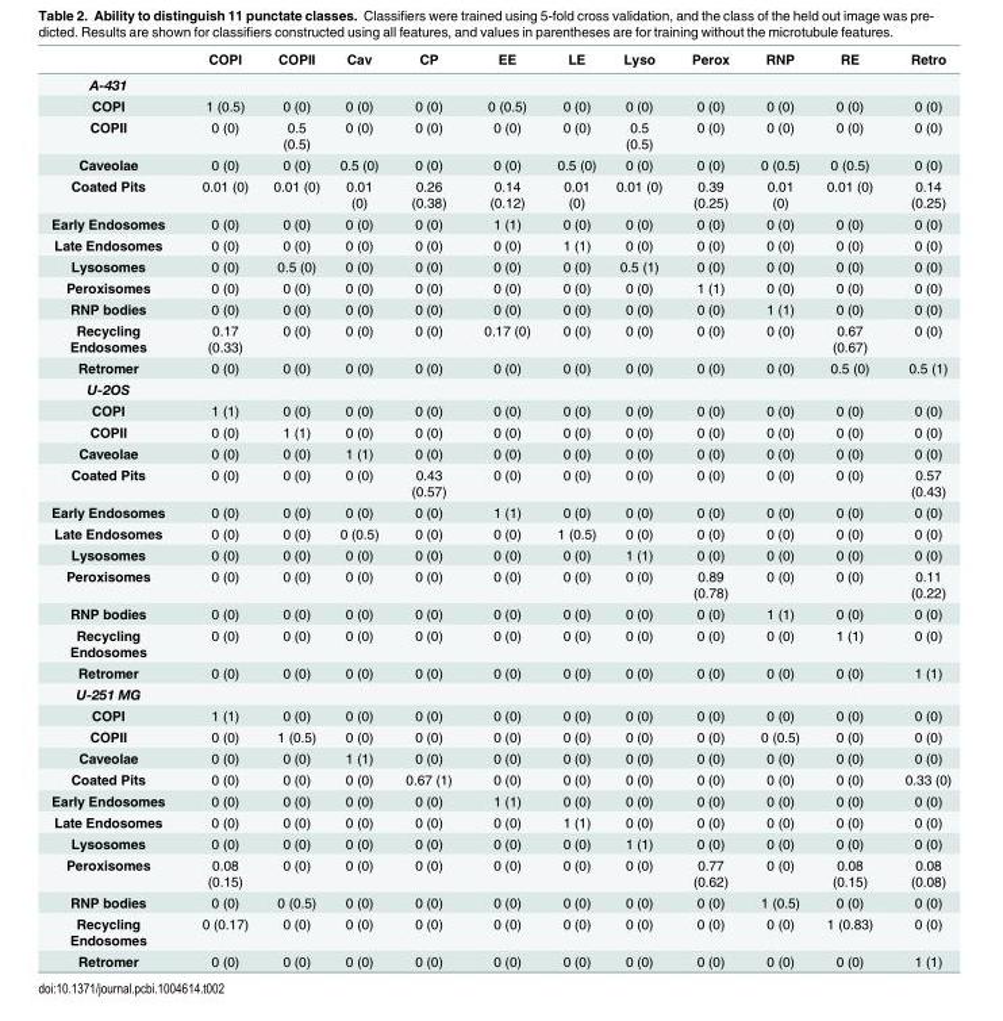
<table><thead><tr><td></td><td>COPI</td><td>COPII</td><td>Cav</td><td>CP</td><td>EE</td><td>LE</td><td>Lyso</td><td>Perox</td><td>RNP</td><td>RE</td><td>Retro</td></tr></thead><tbody><tr><td colspan="12">A-431</td></tr><tr><td>COPI</td><td>1 (0.5)</td><td>0 (0)</td><td>0 (0)</td><td>0 (0)</td><td>0 (0.5)</td><td>0 (0)</td><td>0 (0)</td><td>0 (0)</td><td>0 (0)</td><td>0 (0)</td><td>0 (0)</td></tr><tr><td>COPII</td><td>0 (0)</td><td>0.5 (0.5)</td><td>0 (0)</td><td>0 (0)</td><td>0 (0)</td><td>0 (0)</td><td>0.5 (0.5)</td><td>0 (0)</td><td>0 (0)</td><td>0 (0)</td><td>0 (0)</td></tr><tr><td>Caveolae</td><td>0 (0)</td><td>0 (0)</td><td>0.5 (0)</td><td>0 (0)</td><td>0 (0)</td><td>0.5 (0)</td><td>0 (0)</td><td>0 (0)</td><td>0 (0.5)</td><td>0 (0.5)</td><td>0 (0)</td></tr><tr><td>Coated Pits</td><td>0.01 (0)</td><td>0.01 (0)</td><td>0.01 (0)</td><td>0.26 (0.38)</td><td>0.14 (0.12)</td><td>0.01 (0)</td><td>0.01 (0)</td><td>0.39 (0.25)</td><td>0.01 (0)</td><td>0.01 (0)</td><td>0.14 (0.25)</td></tr><tr><td>Early Endosomes</td><td>0 (0)</td><td>0 (0)</td><td>0 (0)</td><td>0 (0)</td><td>1 (1)</td><td>0 (0)</td><td>0 (0)</td><td>0 (0)</td><td>0 (0)</td><td>0 (0)</td><td>0 (0)</td></tr><tr><td>Late Endosomes</td><td>0 (0)</td><td>0 (0)</td><td>0 (0)</td><td>0 (0)</td><td>0 (0)</td><td>1 (1)</td><td>0 (0)</td><td>0 (0)</td><td>0 (0)</td><td>0 (0)</td><td>0 (0)</td></tr><tr><td>Lysosomes</td><td>0 (0)</td><td>0.5 (0)</td><td>0 (0)</td><td>0 (0)</td><td>0 (0)</td><td>0 (0)</td><td>0.5 (1)</td><td>0 (0)</td><td>0 (0)</td><td>0 (0)</td><td>0 (0)</td></tr><tr><td>Peroxisomes</td><td>0 (0)</td><td>0 (0)</td><td>0 (0)</td><td>0 (0)</td><td>0 (0)</td><td>0 (0)</td><td>0 (0)</td><td>1 (1)</td><td>0 (0)</td><td>0 (0)</td><td>0 (0)</td></tr><tr><td>RNP bodies</td><td>0 (0)</td><td>0 (0)</td><td>0 (0)</td><td>0 (0)</td><td>0 (0)</td><td>0 (0)</td><td>0 (0)</td><td>0 (0)</td><td>1 (1)</td><td>0 (0)</td><td>0 (0)</td></tr><tr><td>Recycling Endosomes</td><td>0.17 (0.33)</td><td>0 (0)</td><td>0 (0)</td><td>0 (0)</td><td>0.17 (0)</td><td>0 (0)</td><td>0 (0)</td><td>0 (0)</td><td>0 (0)</td><td>0.67 (0.67)</td><td>0 (0)</td></tr><tr><td>Retromer</td><td>0 (0)</td><td>0 (0)</td><td>0 (0)</td><td>0 (0)</td><td>0 (0)</td><td>0 (0)</td><td>0 (0)</td><td>0 (0)</td><td>0 (0)</td><td>0.5 (0)</td><td>0.5 (1)</td></tr><tr><td colspan="12">U-2OS</td></tr><tr><td>COPI</td><td>1 (1)</td><td>0 (0)</td><td>0 (0)</td><td>0 (0)</td><td>0 (0)</td><td>0 (0)</td><td>0 (0)</td><td>0 (0)</td><td>0 (0)</td><td>0 (0)</td><td>0 (0)</td></tr><tr><td>COPII</td><td>0 (0)</td><td>1 (1)</td><td>0 (0)</td><td>0 (0)</td><td>0 (0)</td><td>0 (0)</td><td>0 (0)</td><td>0 (0)</td><td>0 (0)</td><td>0 (0)</td><td>0 (0)</td></tr><tr><td>Caveolae</td><td>0 (0)</td><td>0 (0)</td><td>1 (1)</td><td>0 (0)</td><td>0 (0)</td><td>0 (0)</td><td>0 (0)</td><td>0 (0)</td><td>0 (0)</td><td>0 (0)</td><td>0 (0)</td></tr><tr><td>Coated Pits</td><td>0 (0)</td><td>0 (0)</td><td>0 (0)</td><td>0.43 (0.57)</td><td>0 (0)</td><td>0 (0)</td><td>0 (0)</td><td>0 (0)</td><td>0 (0)</td><td>0 (0)</td><td>0.57 (0.43)</td></tr><tr><td>Early Endosomes</td><td>0 (0)</td><td>0 (0)</td><td>0 (0)</td><td>0 (0)</td><td>1 (1)</td><td>0 (0)</td><td>0 (0)</td><td>0 (0)</td><td>0 (0)</td><td>0 (0)</td><td>0 (0)</td></tr><tr><td>Late Endosomes</td><td>0 (0)</td><td>0 (0)</td><td>0 (0.5)</td><td>0 (0)</td><td>0 (0)</td><td>1 (0.5)</td><td>0 (0)</td><td>0 (0)</td><td>0 (0)</td><td>0 (0)</td><td>0 (0)</td></tr><tr><td>Lysosomes</td><td>0 (0)</td><td>0 (0)</td><td>0 (0)</td><td>0 (0)</td><td>0 (0)</td><td>0 (0)</td><td>1 (1)</td><td>0 (0)</td><td>0 (0)</td><td>0 (0)</td><td>0 (0)</td></tr><tr><td>Peroxisomes</td><td>0 (0)</td><td>0 (0)</td><td>0 (0)</td><td>0 (0)</td><td>0 (0)</td><td>0 (0)</td><td>0 (0)</td><td>0.89 (0.78)</td><td>0 (0)</td><td>0 (0)</td><td>0.11 (0.22)</td></tr><tr><td>RNP bodies</td><td>0 (0)</td><td>0 (0)</td><td>0 (0)</td><td>0 (0)</td><td>0 (0)</td><td>0 (0)</td><td>0 (0)</td><td>0 (0)</td><td>1 (1)</td><td>0 (0)</td><td>0 (0)</td></tr><tr><td>Recycling Endosomes</td><td>0 (0)</td><td>0 (0)</td><td>0 (0)</td><td>0 (0)</td><td>0 (0)</td><td>0 (0)</td><td>0 (0)</td><td>0 (0)</td><td>0 (0)</td><td>1 (1)</td><td>0 (0)</td></tr><tr><td>Retromer</td><td>0 (0)</td><td>0 (0)</td><td>0 (0)</td><td>0 (0)</td><td>0 (0)</td><td>0 (0)</td><td>0 (0)</td><td>0 (0)</td><td>0 (0)</td><td>0 (0)</td><td>1 (1)</td></tr><tr><td colspan="12">U-251 MG</td></tr><tr><td>COPI</td><td>1 (1)</td><td>0 (0)</td><td>0 (0)</td><td>0 (0)</td><td>0 (0)</td><td>0 (0)</td><td>0 (0)</td><td>0 (0)</td><td>0 (0)</td><td>0 (0)</td><td>0 (0)</td></tr><tr><td>COPII</td><td>0 (0)</td><td>1 (0.5)</td><td>0 (0)</td><td>0 (0)</td><td>0 (0)</td><td>0 (0)</td><td>0 (0)</td><td>0 (0)</td><td>0 (0.5)</td><td>0 (0)</td><td>0 (0)</td></tr><tr><td>Caveolae</td><td>0 (0)</td><td>0 (0)</td><td>1 (1)</td><td>0 (0)</td><td>0 (0)</td><td>0 (0)</td><td>0 (0)</td><td>0 (0)</td><td>0 (0)</td><td>0 (0)</td><td>0 (0)</td></tr><tr><td>Coated Pits</td><td>0 (0)</td><td>0 (0)</td><td>0 (0)</td><td>0.67 (1)</td><td>0 (0)</td><td>0 (0)</td><td>0 (0)</td><td>0 (0)</td><td>0 (0)</td><td>0 (0)</td><td>0.33 (0)</td></tr><tr><td>Early Endosomes</td><td>0 (0)</td><td>0 (0)</td><td>0 (0)</td><td>0 (0)</td><td>1 (1)</td><td>0 (0)</td><td>0 (0)</td><td>0 (0)</td><td>0 (0)</td><td>0 (0)</td><td>0 (0)</td></tr><tr><td>Late Endosomes</td><td>0 (0)</td><td>0 (0)</td><td>0 (0)</td><td>0 (0)</td><td>0 (0)</td><td>1 (1)</td><td>0 (0)</td><td>0 (0)</td><td>0 (0)</td><td>0 (0)</td><td>0 (0)</td></tr><tr><td>Lysosomes</td><td>0 (0)</td><td>0 (0)</td><td>0 (0)</td><td>0 (0)</td><td>0 (0)</td><td>0 (0)</td><td>1 (1)</td><td>0 (0)</td><td>0 (0)</td><td>0 (0)</td><td>0 (0)</td></tr><tr><td>Peroxisomes</td><td>0.08 (0.15)</td><td>0 (0)</td><td>0 (0)</td><td>0 (0)</td><td>0 (0)</td><td>0 (0)</td><td>0 (0)</td><td>0.77 (0.62)</td><td>0 (0)</td><td>0.08 (0.15)</td><td>0.08 (0.08)</td></tr><tr><td>RNP bodies</td><td>0 (0)</td><td>0 (0.5)</td><td>0 (0)</td><td>0 (0)</td><td>0 (0)</td><td>0 (0)</td><td>0 (0)</td><td>0 (0)</td><td>1 (0.5)</td><td>0 (0)</td><td>0 (0)</td></tr><tr><td>Recycling Endosomes</td><td>0 (0.17)</td><td>0 (0)</td><td>0 (0)</td><td>0 (0)</td><td>0 (0)</td><td>0 (0)</td><td>0 (0)</td><td>0 (0)</td><td>0 (0)</td><td>1 (0.83)</td><td>0 (0)</td></tr><tr><td>Retromer</td><td>0 (0)</td><td>0 (0)</td><td>0 (0)</td><td>0 (0)</td><td>0 (0)</td><td>0 (0)</td><td>0 (0)</td><td>0 (0)</td><td>0 (0)</td><td>0 (0)</td><td>1 (1)</td></tr></tbody></table>